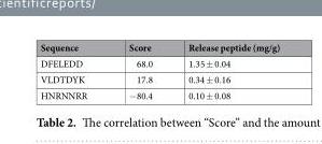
<table><thead><tr><td>Sequence</td><td>Score</td><td>Release peptide (mg/g)</td></tr></thead><tbody><tr><td>DFELEDD</td><td>68.0</td><td>1.35 ± 0.04</td></tr><tr><td>VLDTDYK</td><td>17.8</td><td>0.34 ± 0.16</td></tr><tr><td>HNRNNRR</td><td>−80.4</td><td>0.10 ± 0.08</td></tr></tbody></table>